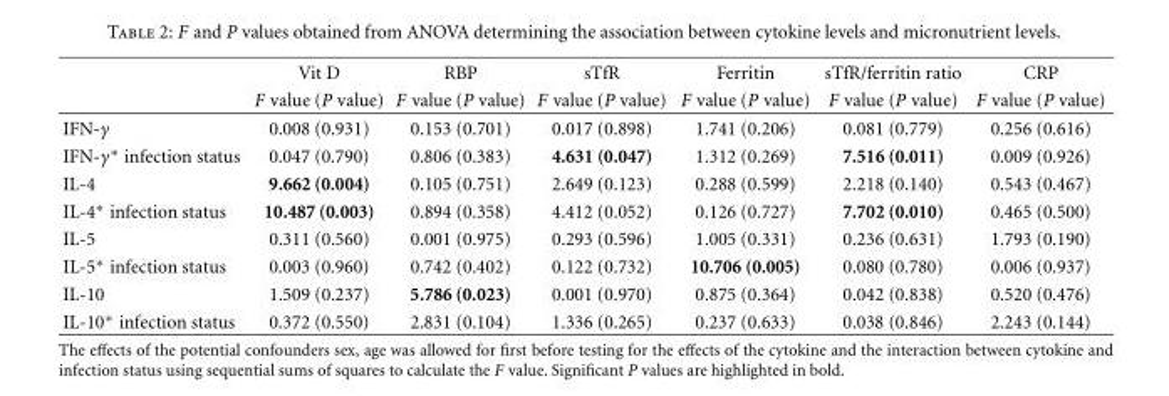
<table><thead><tr><td rowspan="2"></td><td rowspan="2">Vit D F value (P value)</td><td rowspan="2">RBP F value (P value)</td><td rowspan="2">sTfR F value (P value)</td><td rowspan="2">Ferritin F value (P value)</td><td rowspan="2">sTfR/ferritin ratio F value (P value)</td><td rowspan="2">CRP F value (P value)</td></tr><tr></tr></thead><tbody><tr><td>IFN-γ</td><td>0.008 (0.931)</td><td>0.153 (0.701)</td><td>0.017 (0.898)</td><td>1.741 (0.206)</td><td>0.081 (0.779)</td><td>0.256 (0.616)</td></tr><tr><td>IFN-γ∗ infection status</td><td>0.047 (0.790)</td><td>0.806 (0.383)</td><td>4.631 (0.047)</td><td>1.312 (0.269)</td><td>7.516 (0.011)</td><td>0.009 (0.926)</td></tr><tr><td>IL-4</td><td>9.662 (0.004)</td><td>0.105 (0.751)</td><td>2.649 (0.123)</td><td>0.288 (0.599)</td><td>2.218 (0.140)</td><td>0.543 (0.467)</td></tr><tr><td>IL-4∗ infection status</td><td>10.487 (0.003)</td><td>0.894 (0.358)</td><td>4.412 (0.052)</td><td>0.126 (0.727)</td><td>7.702 (0.010)</td><td>0.465 (0.500)</td></tr><tr><td>IL-5</td><td>0.311 (0.560)</td><td>0.001 (0.975)</td><td>0.293 (0.596)</td><td>1.005 (0.331)</td><td>0.236 (0.631)</td><td>1.793 (0.190)</td></tr><tr><td>IL-5∗ infection status</td><td>0.003 (0.960)</td><td>0.742 (0.402)</td><td>0.122 (0.732)</td><td>10.706 (0.005)</td><td>0.080 (0.780)</td><td>0.006 (0.937)</td></tr><tr><td>IL-10</td><td>1.509 (0.237)</td><td>5.786 (0.023)</td><td>0.001 (0.970)</td><td>0.875 (0.364)</td><td>0.042 (0.838)</td><td>0.520 (0.476)</td></tr><tr><td>IL-10∗ infection status</td><td>0.372 (0.550)</td><td>2.831 (0.104)</td><td>1.336 (0.265)</td><td>0.237 (0.633)</td><td>0.038 (0.846)</td><td>2.243 (0.144)</td></tr></tbody></table>